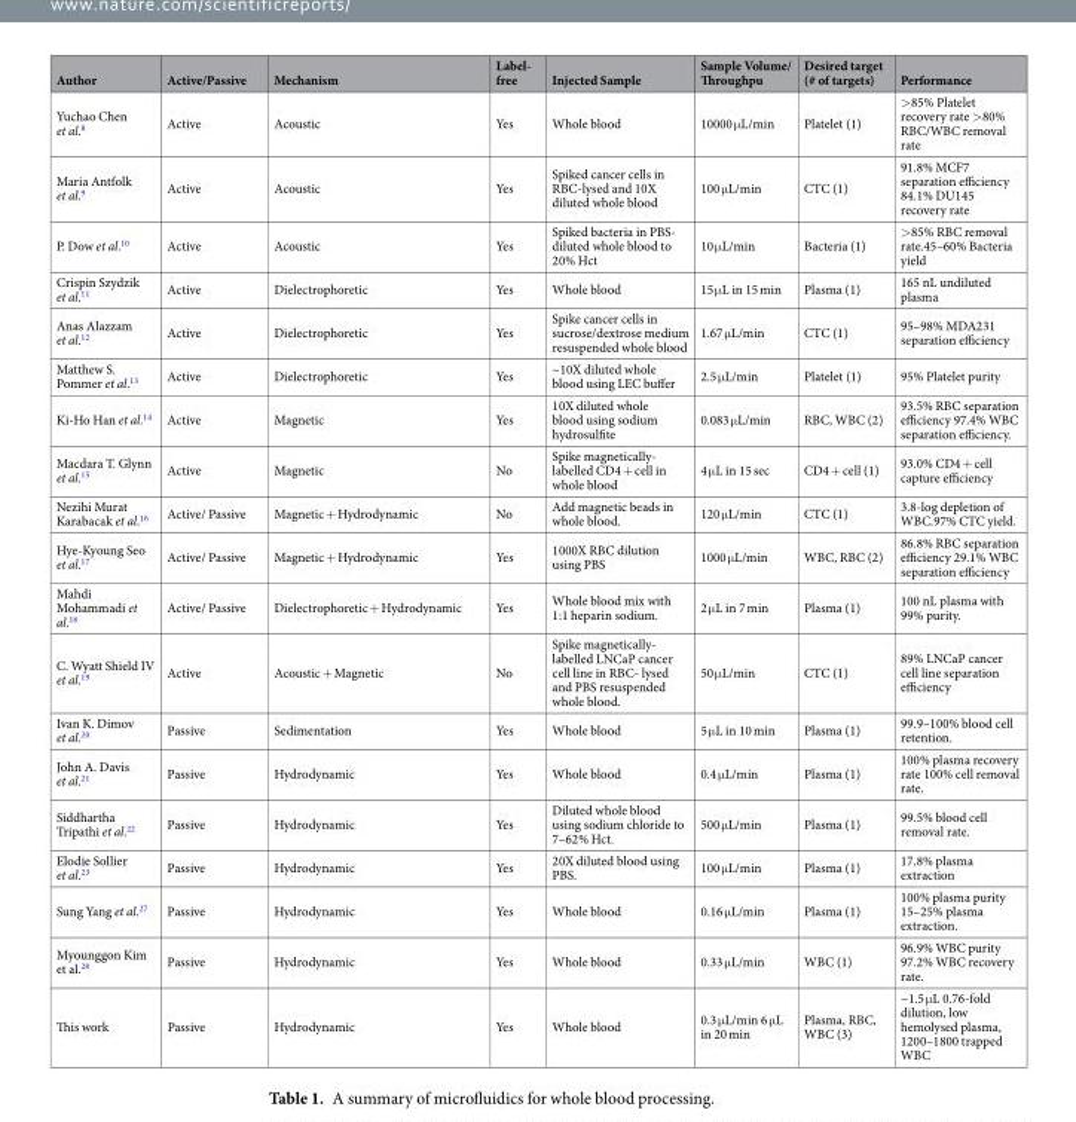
<table><thead><tr><td>Author</td><td>Active/Passive</td><td>Mechanism</td><td>Label- free</td><td>Injected Sample</td><td>Sample Volume/ Throughpu</td><td>Desired target (# of targets)</td><td>Performance</td></tr></thead><tbody><tr><td>Yuchao Chen et al.<sup>8</sup></td><td>Active</td><td>Acoustic</td><td>Yes</td><td>Whole blood</td><td>10000 μL/min</td><td>Platelet (1)</td><td>&gt;85% Platelet recovery rate &gt;80% RBC/WBC removal rate</td></tr><tr><td>Maria Antfolk et al.<sup>9</sup></td><td>Active</td><td>Acoustic</td><td>Yes</td><td>Spiked cancer cells in RBC-lysed and 10X diluted whole blood</td><td>100 μL/min</td><td>CTC (1)</td><td>91.8% MCF7 separation efficiency 84.1% DU145 recovery rate</td></tr><tr><td>P. Dow et al.<sup>10</sup></td><td>Active</td><td>Acoustic</td><td>Yes</td><td>Spiked bacteria in PBS- diluted whole blood to 20% Hct</td><td>10 μL/min</td><td>Bacteria (1)</td><td>&gt;85% RBC removal rate.45–60% Bacteria yield</td></tr><tr><td>Crispin Szydzik et al.<sup>11</sup></td><td>Active</td><td>Dielectrophoretic</td><td>Yes</td><td>Whole blood</td><td>15 μL in 15 min</td><td>Plasma (1)</td><td>165 nL undiluted plasma</td></tr><tr><td>Anas Alazzam et al.<sup>12</sup></td><td>Active</td><td>Dielectrophoretic</td><td>Yes</td><td>Spike cancer cells in sucrose/dextrose medium resuspended whole blood</td><td>1.67 μL/min</td><td>CTC (1)</td><td>95–98% MDA231 separation efficiency</td></tr><tr><td>Matthew S. Pommer et al.<sup>13</sup></td><td>Active</td><td>Dielectrophoretic</td><td>Yes</td><td>~10X diluted whole blood using LEC buffer</td><td>2.5 μL/min</td><td>Platelet (1)</td><td>95% Platelet purity</td></tr><tr><td>Ki-Ho Han et al.<sup>14</sup></td><td>Active</td><td>Magnetic</td><td>Yes</td><td>10X diluted whole blood using sodium hydrosulfite</td><td>0.083 μL/min</td><td>RBC, WBC (2)</td><td>93.5% RBC separation efficiency 97.4% WBC separation efficiency.</td></tr><tr><td>Macdara T. Glynn et al.<sup>15</sup></td><td>Active</td><td>Magnetic</td><td>No</td><td>Spike magnetically- labelled CD4 + cell in whole blood</td><td>4 μL in 15 sec</td><td>CD4 + cell (1)</td><td>93.0% CD4 + cell capture efficiency</td></tr><tr><td>Nezihi Murat Karabacak et al.<sup>16</sup></td><td>Active/ Passive</td><td>Magnetic + Hydrodynamic</td><td>No</td><td>Add magnetic beads in whole blood.</td><td>120 μL/min</td><td>CTC (1)</td><td>3.8-log depletion of WBC.97% CTC yield.</td></tr><tr><td>Hye-Kyoung Seo et al.<sup>17</sup></td><td>Active/ Passive</td><td>Magnetic + Hydrodynamic</td><td>Yes</td><td>1000X RBC dilution using PBS</td><td>1000 μL/min</td><td>WBC, RBC (2)</td><td>86.8% RBC separation efficiency 29.1% WBC separation efficiency</td></tr><tr><td>Mahdi Mohammadi et al.<sup>18</sup></td><td>Active/ Passive</td><td>Dielectrophoretic + Hydrodynamic</td><td>Yes</td><td>Whole blood mix with 1:1 heparin sodium.</td><td>2 μL in 7 min</td><td>Plasma (1)</td><td>100 nL plasma with 99% purity.</td></tr><tr><td>C. Wyatt Shield IV et al.<sup>19</sup></td><td>Active</td><td>Acoustic + Magnetic</td><td>No</td><td>Spike magnetically- labelled LNCaP cancer cell line in RBC- lysed and PBS resuspended whole blood.</td><td>50 μL/min</td><td>CTC (1)</td><td>89% LNCaP cancer cell line separation efficiency</td></tr><tr><td>Ivan K. Dimov et al.<sup>20</sup></td><td>Passive</td><td>Sedimentation</td><td>Yes</td><td>Whole blood</td><td>5 μL in 10 min</td><td>Plasma (1)</td><td>99.9–100% blood cell retention.</td></tr><tr><td>John A. Davis et al.<sup>21</sup></td><td>Passive</td><td>Hydrodynamic</td><td>Yes</td><td>Whole blood</td><td>0.4 μL/min</td><td>Plasma (1)</td><td>100% plasma recovery rate 100% cell removal rate.</td></tr><tr><td>Siddhartha Tripathi et al.<sup>22</sup></td><td>Passive</td><td>Hydrodynamic</td><td>Yes</td><td>Diluted whole blood using sodium chloride to 7–62% Hct.</td><td>500 μL/min</td><td>Plasma (1)</td><td>99.5% blood cell removal rate.</td></tr><tr><td>Elodie Sollier et al.<sup>23</sup></td><td>Passive</td><td>Hydrodynamic</td><td>Yes</td><td>20X diluted blood using PBS.</td><td>100 μL/min</td><td>Plasma (1)</td><td>17.8% plasma extraction</td></tr><tr><td>Sung Yang et al.<sup>27</sup></td><td>Passive</td><td>Hydrodynamic</td><td>Yes</td><td>Whole blood</td><td>0.16 μL/min</td><td>Plasma (1)</td><td>100% plasma purity 15–25% plasma extraction.</td></tr><tr><td>Myounggon Kim et al.<sup>28</sup></td><td>Passive</td><td>Hydrodynamic</td><td>Yes</td><td>Whole blood</td><td>0.33 μL/min</td><td>WBC (1)</td><td>96.9% WBC purity 97.2% WBC recovery rate.</td></tr><tr><td>This work</td><td>Passive</td><td>Hydrodynamic</td><td>Yes</td><td>Whole blood</td><td>0.3 μL/min 6 μL in 20 min</td><td>Plasma, RBC, WBC (3)</td><td>~1.5 μL 0.76-fold dilution, low hemolysed plasma, 1200–1800 trapped WBC</td></tr></tbody></table>